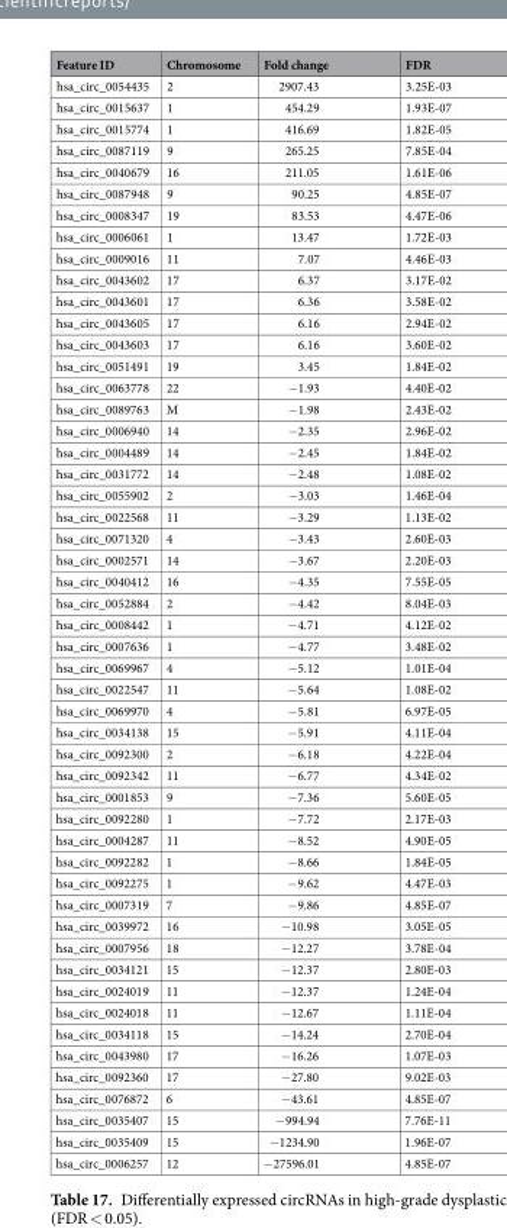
<table><thead><tr><td>Feature ID</td><td>Chromosome</td><td>Fold change</td><td>FDR</td></tr></thead><tbody><tr><td>hsa_circ_0054435</td><td>2</td><td>2907.43</td><td>3.25E-03</td></tr><tr><td>hsa_circ_0015637</td><td>1</td><td>454.29</td><td>1.93E-07</td></tr><tr><td>hsa_circ_0015774</td><td>1</td><td>416.69</td><td>1.82E-05</td></tr><tr><td>hsa_circ_0087119</td><td>9</td><td>265.25</td><td>7.85E-04</td></tr><tr><td>hsa_circ_0040679</td><td>16</td><td>211.05</td><td>1.61E-06</td></tr><tr><td>hsa_circ_0087948</td><td>9</td><td>90.25</td><td>4.85E-07</td></tr><tr><td>hsa_circ_0008347</td><td>19</td><td>83.53</td><td>4.47E-06</td></tr><tr><td>hsa_circ_0006061</td><td>1</td><td>13.47</td><td>1.72E-03</td></tr><tr><td>hsa_circ_0009016</td><td>11</td><td>7.07</td><td>4.46E-03</td></tr><tr><td>hsa_circ_0043602</td><td>17</td><td>6.37</td><td>3.17E-02</td></tr><tr><td>hsa_circ_0043601</td><td>17</td><td>6.36</td><td>3.58E-02</td></tr><tr><td>hsa_circ_0043605</td><td>17</td><td>6.16</td><td>2.94E-02</td></tr><tr><td>hsa_circ_0043603</td><td>17</td><td>6.16</td><td>3.60E-02</td></tr><tr><td>hsa_circ_0051491</td><td>19</td><td>3.45</td><td>1.84E-02</td></tr><tr><td>hsa_circ_0063778</td><td>22</td><td>−1.93</td><td>4.40E-02</td></tr><tr><td>hsa_circ_0089763</td><td>M</td><td>−1.98</td><td>2.43E-02</td></tr><tr><td>hsa_circ_0006940</td><td>14</td><td>−2.35</td><td>2.96E-02</td></tr><tr><td>hsa_circ_0004489</td><td>14</td><td>−2.45</td><td>1.84E-02</td></tr><tr><td>hsa_circ_0031772</td><td>14</td><td>−2.48</td><td>1.08E-02</td></tr><tr><td>hsa_circ_0055902</td><td>2</td><td>−3.03</td><td>1.46E-04</td></tr><tr><td>hsa_circ_0022568</td><td>11</td><td>−3.29</td><td>1.13E-02</td></tr><tr><td>hsa_circ_0071320</td><td>4</td><td>−3.43</td><td>2.60E-03</td></tr><tr><td>hsa_circ_0002571</td><td>14</td><td>−3.67</td><td>2.20E-03</td></tr><tr><td>hsa_circ_0040412</td><td>16</td><td>−4.35</td><td>7.55E-05</td></tr><tr><td>hsa_circ_0052884</td><td>2</td><td>−4.42</td><td>8.04E-03</td></tr><tr><td>hsa_circ_0008442</td><td>1</td><td>−4.71</td><td>4.12E-02</td></tr><tr><td>hsa_circ_0007636</td><td>1</td><td>−4.77</td><td>3.48E-02</td></tr><tr><td>hsa_circ_0069967</td><td>4</td><td>−5.12</td><td>1.01E-04</td></tr><tr><td>hsa_circ_0022547</td><td>11</td><td>−5.64</td><td>1.08E-02</td></tr><tr><td>hsa_circ_0069970</td><td>4</td><td>−5.81</td><td>6.97E-05</td></tr><tr><td>hsa_circ_0034138</td><td>15</td><td>−5.91</td><td>4.11E-04</td></tr><tr><td>hsa_circ_0092300</td><td>2</td><td>−6.18</td><td>4.22E-04</td></tr><tr><td>hsa_circ_0092342</td><td>11</td><td>−6.77</td><td>4.34E-02</td></tr><tr><td>hsa_circ_0001853</td><td>9</td><td>−7.36</td><td>5.60E-05</td></tr><tr><td>hsa_circ_0092280</td><td>1</td><td>−7.72</td><td>2.17E-03</td></tr><tr><td>hsa_circ_0004287</td><td>11</td><td>−8.52</td><td>4.90E-05</td></tr><tr><td>hsa_circ_0092282</td><td>1</td><td>−8.66</td><td>1.84E-05</td></tr><tr><td>hsa_circ_0092275</td><td>1</td><td>−9.62</td><td>4.47E-03</td></tr><tr><td>hsa_circ_0007319</td><td>7</td><td>−9.86</td><td>4.85E-07</td></tr><tr><td>hsa_circ_0039972</td><td>16</td><td>−10.98</td><td>3.05E-05</td></tr><tr><td>hsa_circ_0007956</td><td>18</td><td>−12.27</td><td>3.78E-04</td></tr><tr><td>hsa_circ_0034121</td><td>15</td><td>−12.37</td><td>2.80E-03</td></tr><tr><td>hsa_circ_0024019</td><td>11</td><td>−12.37</td><td>1.24E-04</td></tr><tr><td>hsa_circ_0024018</td><td>11</td><td>−12.67</td><td>1.11E-04</td></tr><tr><td>hsa_circ_0034118</td><td>15</td><td>−14.24</td><td>2.70E-04</td></tr><tr><td>hsa_circ_0043980</td><td>17</td><td>−16.26</td><td>1.07E-03</td></tr><tr><td>hsa_circ_0092360</td><td>17</td><td>−27.80</td><td>9.02E-03</td></tr><tr><td>hsa_circ_0076872</td><td>6</td><td>−43.61</td><td>4.85E-07</td></tr><tr><td>hsa_circ_0035407</td><td>15</td><td>−994.94</td><td>7.76E-11</td></tr><tr><td>hsa_circ_0035409</td><td>15</td><td>−1234.90</td><td>1.96E-07</td></tr><tr><td>hsa_circ_0006257</td><td>12</td><td>−27596.01</td><td>4.85E-07</td></tr></tbody></table>